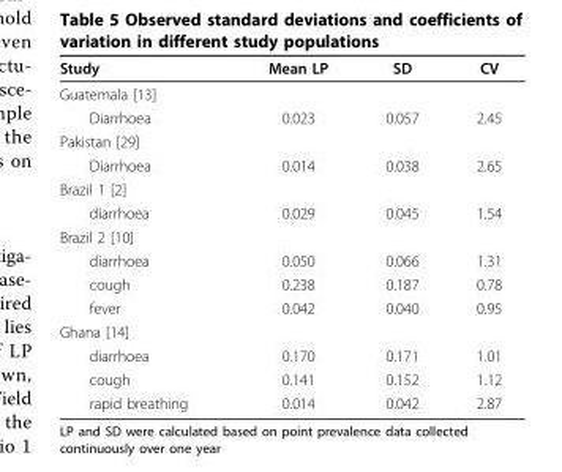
<table><thead><tr><td>Study</td><td>Mean LP</td><td>SD</td><td>CV</td></tr></thead><tbody><tr><td colspan="4">Guatemala [13]</td></tr><tr><td>Diarrhoea</td><td>0.023</td><td>0.057</td><td>2.45</td></tr><tr><td colspan="4">Pakistan [29]</td></tr><tr><td>Diarrhoea</td><td>0.014</td><td>0.038</td><td>2.65</td></tr><tr><td colspan="4">Brazil 1 [2]</td></tr><tr><td>diarrhoea</td><td>0.029</td><td>0.045</td><td>1.54</td></tr><tr><td colspan="4">Brazil 2 [10]</td></tr><tr><td>diarrhoea</td><td>0.050</td><td>0.066</td><td>1.31</td></tr><tr><td>cough</td><td>0.238</td><td>0.187</td><td>0.78</td></tr><tr><td>fever</td><td>0.042</td><td>0.040</td><td>0.95</td></tr><tr><td colspan="4">Ghana [14]</td></tr><tr><td>diarrhoea</td><td>0.170</td><td>0.171</td><td>1.01</td></tr><tr><td>cough</td><td>0.141</td><td>0.152</td><td>1.12</td></tr><tr><td>rapid breathing</td><td>0.014</td><td>0.042</td><td>2.87</td></tr></tbody></table>